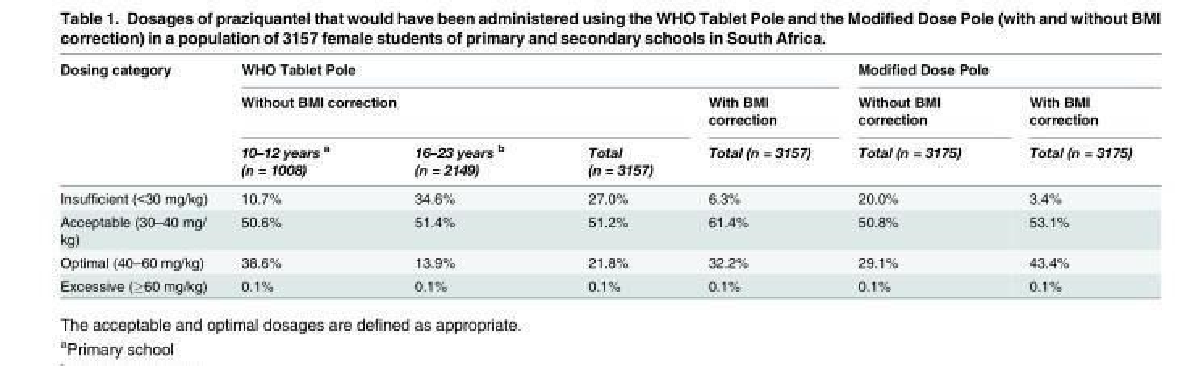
<table><thead><tr><td rowspan="3">Dosing category</td><td colspan="4">WHO Tablet Pole</td><td colspan="2">Modified Dose Pole</td></tr><tr><td colspan="3">Without BMI correction</td><td rowspan="2">With BMI correction Total (n = 3157)</td><td rowspan="2">Without BMI correction Total (n = 3175)</td><td rowspan="2">With BMI correction Total (n = 3175)</td></tr><tr><td>10–12 years <sup>a</sup> (n = 1008)</td><td>16–23 years <sup>b</sup> (n = 2149)</td><td>Total (n = 3157)</td></tr></thead><tbody><tr><td>Insufficient (&lt;30 mg/kg)</td><td>10.7%</td><td>34.6%</td><td>27.0%</td><td>6.3%</td><td>20.0%</td><td>3.4%</td></tr><tr><td>Acceptable (30–40 mg/ kg)</td><td>50.6%</td><td>51.4%</td><td>51.2%</td><td>61.4%</td><td>50.8%</td><td>53.1%</td></tr><tr><td>Optimal (40–60 mg/kg)</td><td>38.6%</td><td>13.9%</td><td>21.8%</td><td>32.2%</td><td>29.1%</td><td>43.4%</td></tr><tr><td>Excessive (≥60 mg/kg)</td><td>0.1%</td><td>0.1%</td><td>0.1%</td><td>0.1%</td><td>0.1%</td><td>0.1%</td></tr></tbody></table>